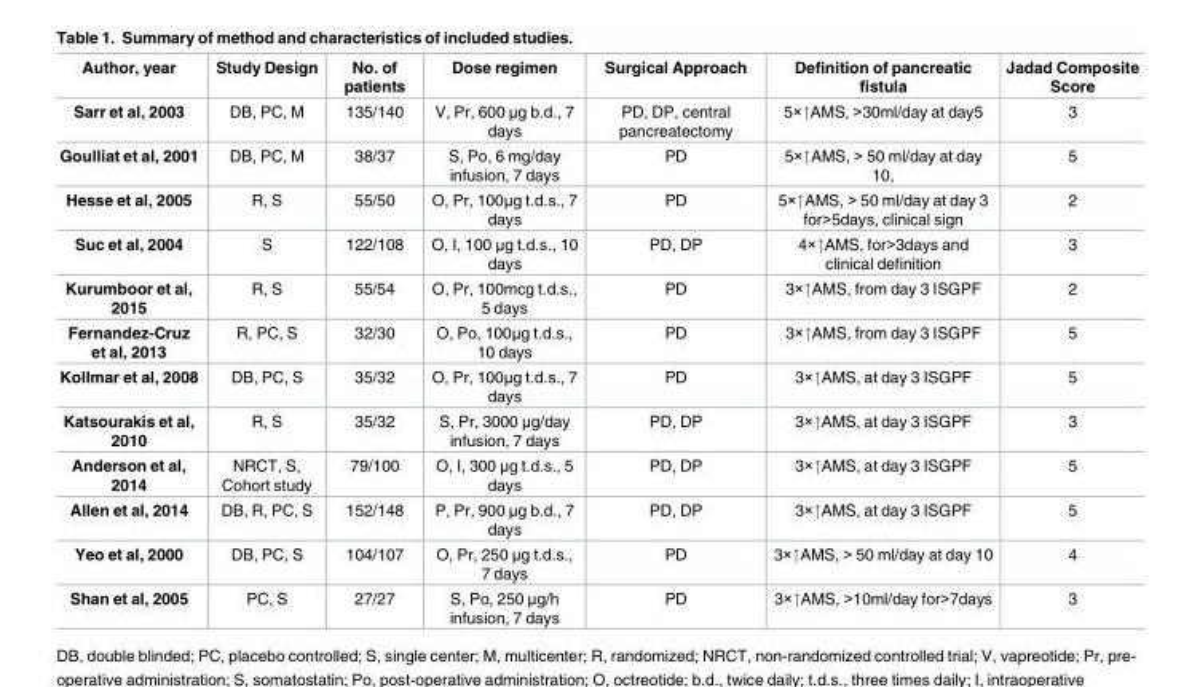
<table><thead><tr><td>Author, year</td><td>Study Design</td><td>No. of patients</td><td>Dose regimen</td><td>Surgical Approach</td><td>Definition of pancreatic fistula</td><td>Jadad Composite Score</td></tr></thead><tbody><tr><td>Sarr et al, 2003</td><td>DB, PC, M</td><td>135/140</td><td>V, Pr, 600 μg b.d., 7 days</td><td>PD, DP, central pancreatectomy</td><td>5×↑AMS, &gt;30ml/day at day5</td><td>3</td></tr><tr><td>Goulliat et al, 2001</td><td>DB, PC, M</td><td>38/37</td><td>S, Po, 6 mg/day infusion, 7 days</td><td>PD</td><td>5×↑AMS, &gt; 50 ml/day at day 10,</td><td>5</td></tr><tr><td>Hesse et al, 2005</td><td>R, S</td><td>55/50</td><td>O, Pr, 100μg t.d.s., 7 days</td><td>PD</td><td>5×↑AMS, &gt; 50 ml/day at day 3 for&gt;5days, clinical sign</td><td>2</td></tr><tr><td>Suc et al, 2004</td><td>S</td><td>122/108</td><td>O, I, 100 μg t.d.s., 10 days</td><td>PD, DP</td><td>4×↑AMS, for&gt;3days and clinical definition</td><td>3</td></tr><tr><td>Kurumboor et al, 2015</td><td>R, S</td><td>55/54</td><td>O, Pr, 100mcg t.d.s., 5 days</td><td>PD</td><td>3×↑AMS, from day 3 ISGPF</td><td>2</td></tr><tr><td>Fernandez-Cruz et al, 2013</td><td>R, PC, S</td><td>32/30</td><td>O, Po, 100μg t.d.s., 10 days</td><td>PD</td><td>3×↑AMS, from day 3 ISGPF</td><td>5</td></tr><tr><td>Kollmar et al, 2008</td><td>DB, PC, S</td><td>35/32</td><td>O, Pr, 100μg t.d.s., 7 days</td><td>PD</td><td>3×↑AMS, at day 3 ISGPF</td><td>5</td></tr><tr><td>Katsourakis et al, 2010</td><td>R, S</td><td>35/32</td><td>S, Pr, 3000 μg/day infusion, 7 days</td><td>PD, DP</td><td>3×↑AMS, at day 3 ISGPF</td><td>3</td></tr><tr><td>Anderson et al, 2014</td><td>NRCT, S, Cohort study</td><td>79/100</td><td>O, I, 300 μg t.d.s., 5 days</td><td>PD, DP</td><td>3×↑AMS, at day 3 ISGPF</td><td>5</td></tr><tr><td>Allen et al, 2014</td><td>DB, R, PC, S</td><td>152/148</td><td>P, Pr, 900 μg b.d., 7 days</td><td>PD, DP</td><td>3×↑AMS, at day 3 ISGPF</td><td>5</td></tr><tr><td>Yeo et al, 2000</td><td>DB, PC, S</td><td>104/107</td><td>O, Pr, 250 μg t.d.s., 7 days</td><td>PD</td><td>3×↑AMS, &gt; 50 ml/day at day 10</td><td>4</td></tr><tr><td>Shan et al, 2005</td><td>PC, S</td><td>27/27</td><td>S, Po, 250 μg/h infusion, 7 days</td><td>PD</td><td>3×↑AMS, &gt;10ml/day for&gt;7days</td><td>3</td></tr></tbody></table>